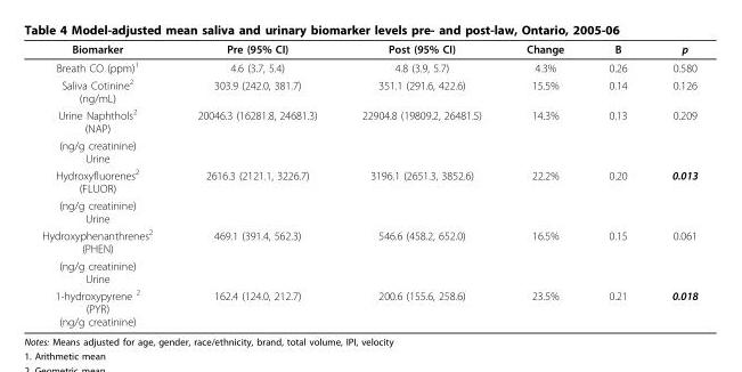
<table><thead><tr><td>Biomarker</td><td>Pre (95% CI)</td><td>Post (95% CI)</td><td>Change</td><td>B</td><td>p</td></tr></thead><tbody><tr><td>Breath CO (ppm)<sup>1</sup></td><td>4.6 (3.7, 5.4)</td><td>4.8 (3.9, 5.7)</td><td>4.3%</td><td>0.26</td><td>0.580</td></tr><tr><td>Saliva Cotinine<sup>2</sup> (ng/mL)</td><td>303.9 (242.0, 381.7)</td><td>351.1 (291.6, 422.6)</td><td>15.5%</td><td>0.14</td><td>0.126</td></tr><tr><td>Urine Naphthols<sup>2</sup> (NAP)</td><td>20046.3 (16281.8, 24681.3)</td><td>22904.8 (19809.2, 26481.5)</td><td>14.3%</td><td>0.13</td><td>0.209</td></tr><tr><td colspan="6">(ng/g creatinine) Urine</td></tr><tr><td>Hydroxyfluorenes<sup>2</sup> (FLUOR)</td><td>2616.3 (2121.1, 3226.7)</td><td>3196.1 (2651.3, 3852.6)</td><td>22.2%</td><td>0.20</td><td>0.013</td></tr><tr><td colspan="6">(ng/g creatinine) Urine</td></tr><tr><td>Hydroxyphenanthrenes<sup>2</sup> (PHEN)</td><td>469.1 (391.4, 562.3)</td><td>546.6 (458.2, 652.0)</td><td>16.5%</td><td>0.15</td><td>0.061</td></tr><tr><td colspan="6">(ng/g creatinine) Urine</td></tr><tr><td>1-hydroxypyrene <sup>2</sup> (PYR) (ng/g creatinine)</td><td>162.4 (124.0, 212.7)</td><td>200.6 (155.6, 258.6)</td><td>23.5%</td><td>0.21</td><td>0.018</td></tr></tbody></table>